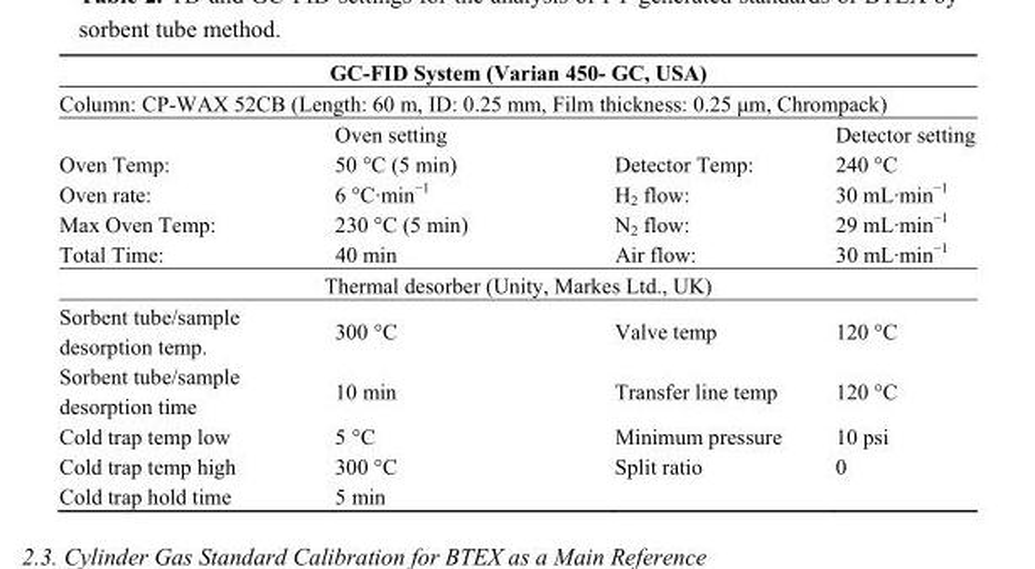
<table><thead><tr><td rowspan="2" colspan="4">GC-FID System (Varian 450- GC, USA) Column: CP-WAX 52CB (Length: 60 m, ID: 0.25 mm, Film thickness: 0.25 μm, Chrompack)</td></tr><tr></tr><tr><td></td><td>Oven setting</td><td></td><td>Detector setting</td></tr></thead><tbody><tr><td>Oven Temp:</td><td>50 °C (5 min)</td><td>Detector Temp:</td><td>240 °C</td></tr><tr><td>Oven rate:</td><td>6 °C·min<sup>−1</sup></td><td>H<sub>2</sub> flow:</td><td>30 mL·min<sup>−1</sup></td></tr><tr><td>Max Oven Temp:</td><td>230 °C (5 min)</td><td>N<sub>2</sub> flow:</td><td>29 mL·min<sup>−1</sup></td></tr><tr><td>Total Time:</td><td>40 min</td><td>Air flow:</td><td>30 mL·min<sup>−1</sup></td></tr><tr><td colspan="4">Thermal desorber (Unity, Markes Ltd., UK)</td></tr><tr><td>Sorbent tube/sample desorption temp.</td><td>300 °C</td><td>Valve temp</td><td>120 °C</td></tr><tr><td>Sorbent tube/sample desorption time</td><td>10 min</td><td>Transfer line temp</td><td>120 °C</td></tr><tr><td>Cold trap temp low</td><td>5 °C</td><td>Minimum pressure</td><td>10 psi</td></tr><tr><td>Cold trap temp high</td><td>300 °C</td><td>Split ratio</td><td>0</td></tr><tr><td>Cold trap hold time</td><td>5 min</td><td></td><td></td></tr></tbody></table>